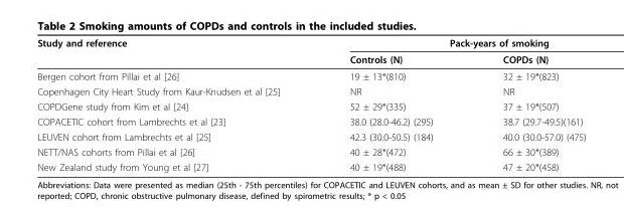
<table><thead><tr><td rowspan="2">Study and reference</td><td colspan="2">Pack-years of smoking</td></tr><tr><td>Controls (N)</td><td>COPDs (N)</td></tr></thead><tbody><tr><td>Bergen cohort from Pillai et al [26]</td><td>19 ± 13*(810)</td><td>32 ± 19*(823)</td></tr><tr><td>Copenhagen City Heart Study from Kaur-Knudsen et al [25]</td><td>NR</td><td>NR</td></tr><tr><td>COPDGene study from Kim et al [24]</td><td>52 ± 29*(335)</td><td>37 ± 19*(507)</td></tr><tr><td>COPACETIC cohort from Lambrechts et al [23]</td><td>38.0 (28.0-46.2) (295)</td><td>38.7 (29.7-49.5)(161)</td></tr><tr><td>LEUVEN cohort from Lambrechts et al [25]</td><td>42.3 (30.0-50.5) (184)</td><td>40.0 (30.0-57.0) (475)</td></tr><tr><td>NETT/NAS cohorts from Pillai et al [26]</td><td>40 ± 28*(472)</td><td>66 ± 30*(389)</td></tr><tr><td>New Zealand study from Young et al [27]</td><td>40 ± 19*(488)</td><td>47 ± 20*(458)</td></tr></tbody></table>